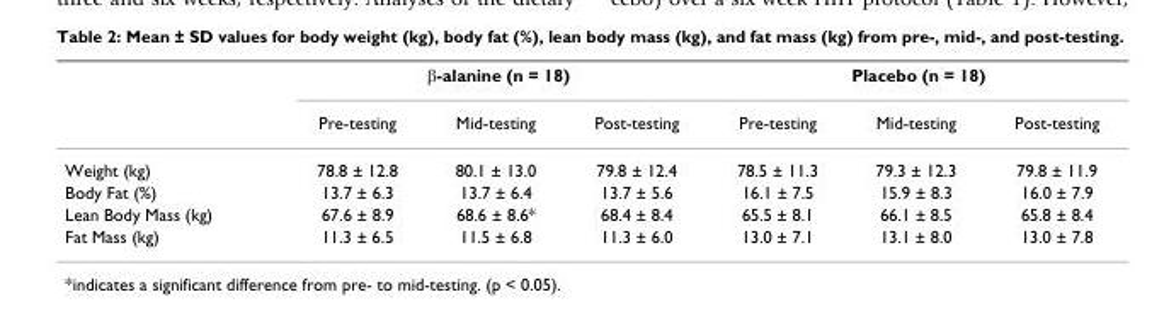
<table><thead><tr><td rowspan="2"></td><td colspan="3">β-alanine (n = 18)</td><td colspan="3">Placebo (n = 18)</td></tr><tr><td>Pre-testing</td><td>Mid-testing</td><td>Post-testing</td><td>Pre-testing</td><td>Mid-testing</td><td>Post-testing</td></tr></thead><tbody><tr><td>Weight (kg)</td><td>78.8 ± 12.8</td><td>80.1 ± 13.0</td><td>79.8 ± 12.4</td><td>78.5 ± 11.3</td><td>79.3 ± 12.3</td><td>79.8 ± 11.9</td></tr><tr><td>Body Fat (%)</td><td>13.7 ± 6.3</td><td>13.7 ± 6.4</td><td>13.7 ± 5.6</td><td>16.1 ± 7.5</td><td>15.9 ± 8.3</td><td>16.0 ± 7.9</td></tr><tr><td>Lean Body Mass (kg)</td><td>67.6 ± 8.9</td><td>68.6 ± 8.6*</td><td>68.4 ± 8.4</td><td>65.5 ± 8.1</td><td>66.1 ± 8.5</td><td>65.8 ± 8.4</td></tr><tr><td>Fat Mass (kg)</td><td>11.3 ± 6.5</td><td>11.5 ± 6.8</td><td>11.3 ± 6.0</td><td>13.0 ± 7.1</td><td>13.1 ± 8.0</td><td>13.0 ± 7.8</td></tr></tbody></table>